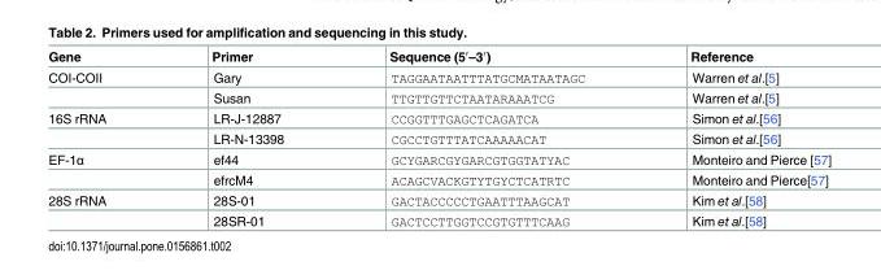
<table><thead><tr><td>Gene</td><td>Primer</td><td>Sequence (5′–3′)</td><td>Reference</td></tr></thead><tbody><tr><td rowspan="2">COI-COII</td><td>Gary</td><td>TAGGAATAATTTATGCMATAATAGC</td><td>Warren et al.[5]</td></tr><tr><td>Susan</td><td>TTGTTGTTCTAATARAAATCG</td><td>Warren et al.[5]</td></tr><tr><td rowspan="2">16S rRNA</td><td>LR-J-12887</td><td>CCGGTTTGAGCTCAGATCA</td><td>Simon et al.[56]</td></tr><tr><td>LR-N-13398</td><td>CGCCTGTTTATCAAAAACAT</td><td>Simon et al.[56]</td></tr><tr><td rowspan="2">EF-1α</td><td>ef44</td><td>GCYGARCGYGARCGTGGTATYAC</td><td>Monteiro and Pierce [57]</td></tr><tr><td>efrcM4</td><td>ACAGCVACKGTYTGYCTCATRTC</td><td>Monteiro and Pierce[57]</td></tr><tr><td rowspan="2">28S rRNA</td><td>28S-01</td><td>GACTACCCCCTGAATTTAAGCAT</td><td>Kim et al.[58]</td></tr><tr><td>28SR-01</td><td>GACTCCTTGGTCCGTGTTTCAAG</td><td>Kim et al.[58]</td></tr></tbody></table>